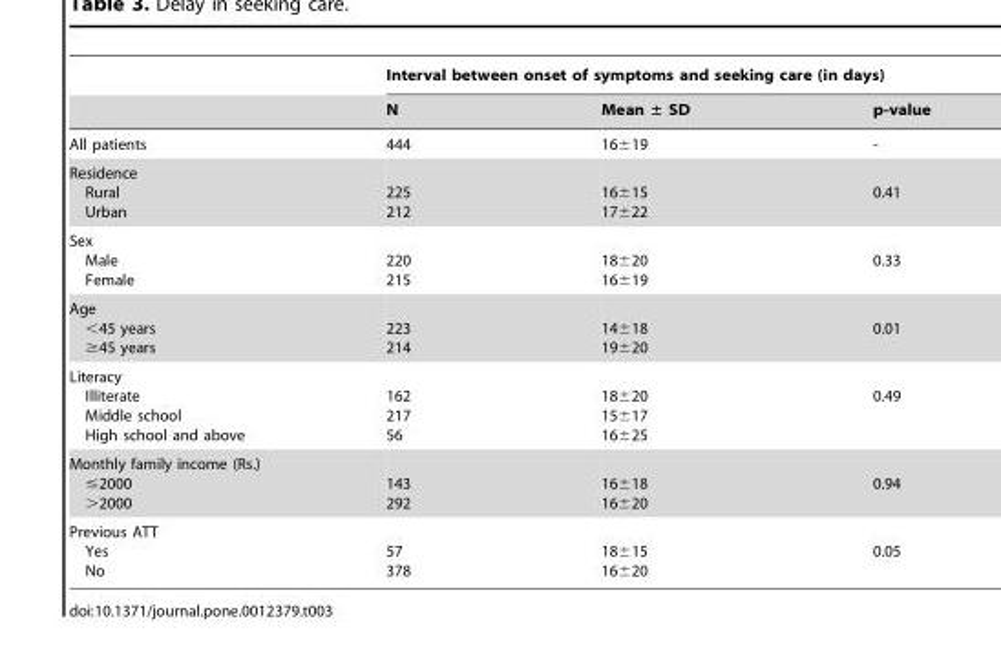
<table><thead><tr><td rowspan="2"></td><td colspan="3">Interval between onset of symptoms and seeking care (in days)</td></tr><tr><td>N</td><td>Mean ± SD</td><td>p-value</td></tr></thead><tbody><tr><td>All patients</td><td>444</td><td>16±19</td><td>-</td></tr><tr><td>Residence Rural Urban</td><td>225 212</td><td>16±15 17±22</td><td>0.41</td></tr><tr><td>Sex Male Female</td><td>220 215</td><td>18±20 16±19</td><td>0.33</td></tr><tr><td>Age &lt;45 years ≥45 years</td><td>223 214</td><td>14±18 19±20</td><td>0.01</td></tr><tr><td>Literacy Illiterate Middle school High school and above</td><td>162 217 56</td><td>18±20 15±17 16±25</td><td>0.49</td></tr><tr><td>Monthly family income (Rs.) ≤2000 &gt;2000</td><td>143 292</td><td>16±18 16±20</td><td>0.94</td></tr><tr><td>Previous ATT Yes No</td><td>57 378</td><td>18±15 16±20</td><td>0.05</td></tr></tbody></table>